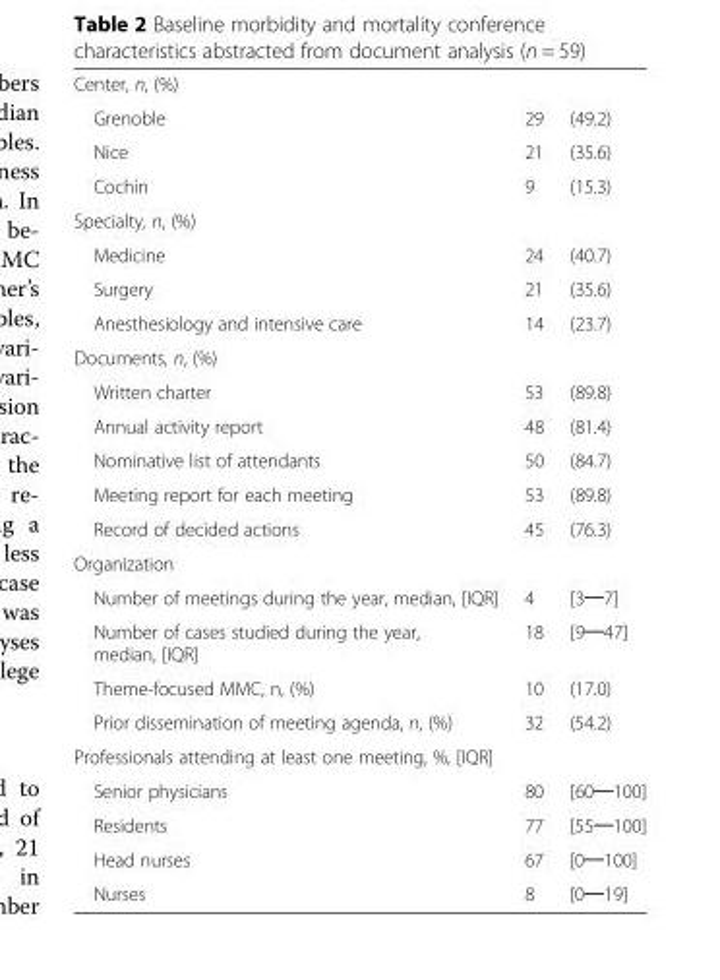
<table><tbody><tr><td colspan="3">Center, n, (%)</td></tr><tr><td>Grenoble</td><td>29</td><td>(49.2)</td></tr><tr><td>Nice</td><td>21</td><td>(35.6)</td></tr><tr><td>Cochin</td><td>9</td><td>(15.3)</td></tr><tr><td colspan="3">Specialty, n, (%)</td></tr><tr><td>Medicine</td><td>24</td><td>(40.7)</td></tr><tr><td>Surgery</td><td>21</td><td>(35.6)</td></tr><tr><td>Anesthesiology and intensive care</td><td>14</td><td>(23.7)</td></tr><tr><td colspan="3">Documents, n, (%)</td></tr><tr><td>Written charter</td><td>53</td><td>(89.8)</td></tr><tr><td>Annual activity report</td><td>48</td><td>(81.4)</td></tr><tr><td>Nominative list of attendants</td><td>50</td><td>(84.7)</td></tr><tr><td>Meeting report for each meeting</td><td>53</td><td>(89.8)</td></tr><tr><td>Record of decided actions</td><td>45</td><td>(76.3)</td></tr><tr><td colspan="3">Organization</td></tr><tr><td>Number of meetings during the year, median, [IQR]</td><td>4</td><td>[3─7]</td></tr><tr><td>Number of cases studied during the year, median, [IQR]</td><td>18</td><td>[9─47]</td></tr><tr><td>Theme-focused MMC, n, (%)</td><td>10</td><td>(17.0)</td></tr><tr><td>Prior dissemination of meeting agenda, n, (%)</td><td>32</td><td>(54.2)</td></tr><tr><td colspan="3">Professionals attending at least one meeting, %, [IQR]</td></tr><tr><td>Senior physicians</td><td>80</td><td>[60─100]</td></tr><tr><td>Residents</td><td>77</td><td>[55─100]</td></tr><tr><td>Head nurses</td><td>67</td><td>[0─100]</td></tr><tr><td>Nurses</td><td>8</td><td>[0─19]</td></tr></tbody></table>